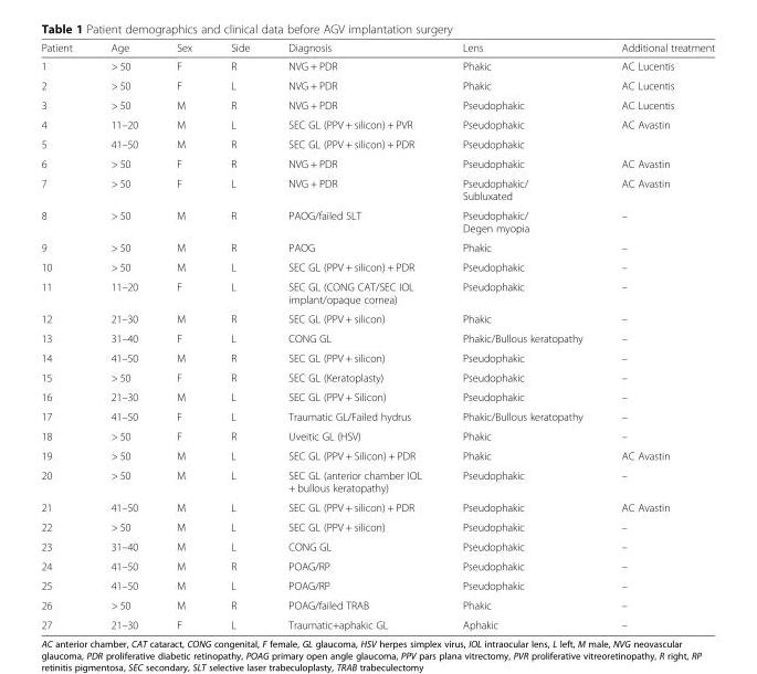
<table><thead><tr><td>Patient</td><td>Age</td><td>Sex</td><td>Side</td><td>Diagnosis</td><td>Lens</td><td>Additional treatment</td></tr></thead><tbody><tr><td>1</td><td>&gt; 50</td><td>F</td><td>R</td><td>NVG + PDR</td><td>Phakic</td><td>AC Lucentis</td></tr><tr><td>2</td><td>&gt; 50</td><td>F</td><td>L</td><td>NVG + PDR</td><td>Phakic</td><td>AC Lucentis</td></tr><tr><td>3</td><td>&gt; 50</td><td>M</td><td>R</td><td>NVG + PDR</td><td>Pseudophakic</td><td>AC Lucentis</td></tr><tr><td>4</td><td>11–20</td><td>M</td><td>L</td><td>SEC GL (PPV + silicon) + PVR</td><td>Pseudophakic</td><td>AC Avastin</td></tr><tr><td>5</td><td>41–50</td><td>M</td><td>R</td><td>SEC GL (PPV + silicon) + PDR</td><td>Pseudophakic</td><td></td></tr><tr><td>6</td><td>&gt; 50</td><td>F</td><td>R</td><td>NVG + PDR</td><td>Pseudophakic</td><td>AC Avastin</td></tr><tr><td>7</td><td>&gt; 50</td><td>F</td><td>L</td><td>NVG + PDR</td><td>Pseudophakic/ Subluxated</td><td>AC Avastin</td></tr><tr><td>8</td><td>&gt; 50</td><td>M</td><td>R</td><td>PAOG/failed SLT</td><td>Pseudophakic/ Degen myopia</td><td>–</td></tr><tr><td>9</td><td>&gt; 50</td><td>M</td><td>R</td><td>PAOG</td><td>Phakic</td><td>–</td></tr><tr><td>10</td><td>&gt; 50</td><td>M</td><td>L</td><td>SEC GL (PPV + silicon) + PDR</td><td>Pseudophakic</td><td>–</td></tr><tr><td>11</td><td>11–20</td><td>F</td><td>L</td><td>SEC GL (CONG CAT/SEC IOL implant/opaque cornea)</td><td>Pseudophakic</td><td>–</td></tr><tr><td>12</td><td>21–30</td><td>M</td><td>R</td><td>SEC GL (PPV + silicon)</td><td>Phakic</td><td>–</td></tr><tr><td>13</td><td>31–40</td><td>F</td><td>L</td><td>CONG GL</td><td>Phakic/Bullous keratopathy</td><td>–</td></tr><tr><td>14</td><td>41–50</td><td>M</td><td>R</td><td>SEC GL (PPV + silicon)</td><td>Pseudophakic</td><td>–</td></tr><tr><td>15</td><td>&gt; 50</td><td>F</td><td>R</td><td>SEC GL (Keratoplasty)</td><td>Pseudophakic</td><td>–</td></tr><tr><td>16</td><td>21–30</td><td>M</td><td>L</td><td>SEC GL (PPV + Silicon)</td><td>Pseudophakic</td><td>–</td></tr><tr><td>17</td><td>41–50</td><td>F</td><td>L</td><td>Traumatic GL/Failed hydrus</td><td>Phakic/Bullous keratopathy</td><td>–</td></tr><tr><td>18</td><td>&gt; 50</td><td>F</td><td>R</td><td>Uveitic GL (HSV)</td><td>Phakic</td><td>–</td></tr><tr><td>19</td><td>&gt; 50</td><td>M</td><td>L</td><td>SEC GL (PPV + Silicon) + PDR</td><td>Phakic</td><td>AC Avastin</td></tr><tr><td>20</td><td>&gt; 50</td><td>M</td><td>L</td><td>SEC GL (anterior chamber IOL + bullous keratopathy)</td><td>Pseudophakic</td><td>–</td></tr><tr><td>21</td><td>41–50</td><td>M</td><td>L</td><td>SEC GL (PPV + silicon) + PDR</td><td>Pseudophakic</td><td>AC Avastin</td></tr><tr><td>22</td><td>&gt; 50</td><td>M</td><td>L</td><td>SEC GL (PPV + silicon)</td><td>Pseudophakic</td><td>–</td></tr><tr><td>23</td><td>31–40</td><td>M</td><td>L</td><td>CONG GL</td><td>Pseudophakic</td><td>–</td></tr><tr><td>24</td><td>41–50</td><td>M</td><td>R</td><td>POAG/RP</td><td>Pseudophakic</td><td>–</td></tr><tr><td>25</td><td>41–50</td><td>M</td><td>L</td><td>POAG/RP</td><td>Pseudophakic</td><td>–</td></tr><tr><td>26</td><td>&gt; 50</td><td>M</td><td>R</td><td>POAG/failed TRAB</td><td>Phakic</td><td>–</td></tr><tr><td>27</td><td>21–30</td><td>F</td><td>L</td><td>Traumatic+aphakic GL</td><td>Aphakic</td><td>–</td></tr></tbody></table>